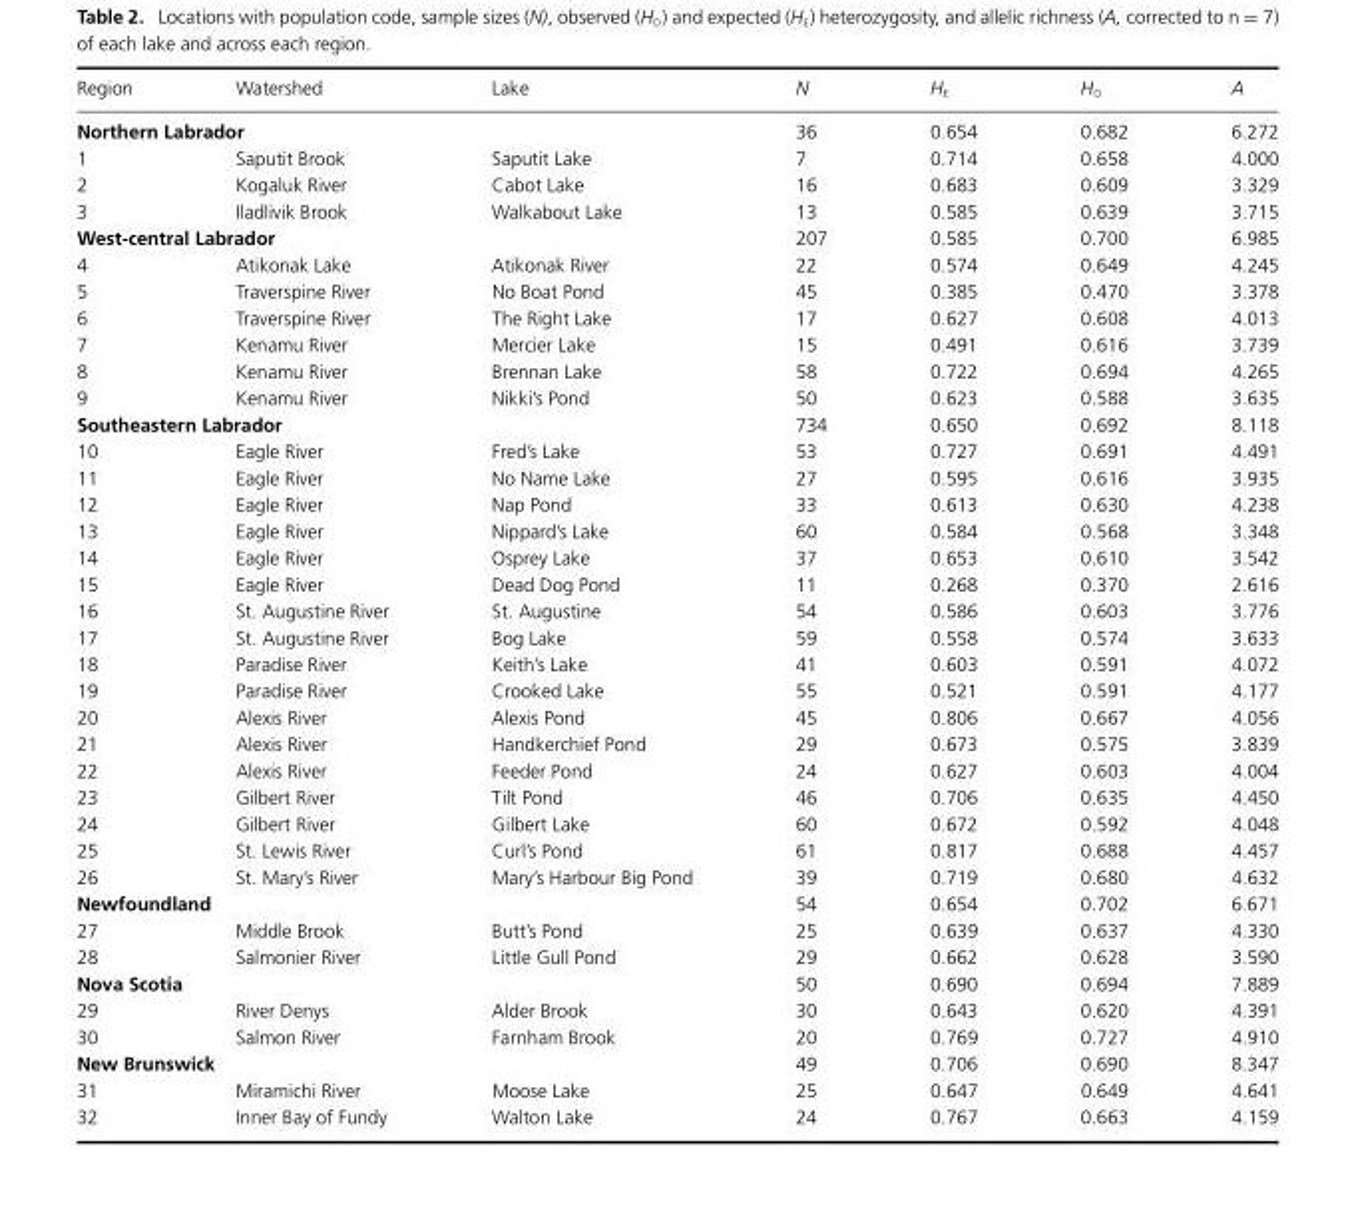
<table><thead><tr><td>Region</td><td>Watershed</td><td>Lake</td><td>N</td><td>H<sub>E</sub></td><td>H<sub>O</sub></td><td>A</td></tr></thead><tbody><tr><td colspan="3">Northern Labrador</td><td>36</td><td>0.654</td><td>0.682</td><td>6.272</td></tr><tr><td>1</td><td>Saputit Brook</td><td>Saputit Lake</td><td>7</td><td>0.714</td><td>0.658</td><td>4.000</td></tr><tr><td>2</td><td>Kogaluk River</td><td>Cabot Lake</td><td>16</td><td>0.683</td><td>0.609</td><td>3.329</td></tr><tr><td>3</td><td>Iladlivik Brook</td><td>Walkabout Lake</td><td>13</td><td>0.585</td><td>0.639</td><td>3.715</td></tr><tr><td colspan="3">West-central Labrador</td><td>207</td><td>0.585</td><td>0.700</td><td>6.985</td></tr><tr><td>4</td><td>Atikonak Lake</td><td>Atikonak River</td><td>22</td><td>0.574</td><td>0.649</td><td>4.245</td></tr><tr><td>5</td><td>Traverspine River</td><td>No Boat Pond</td><td>45</td><td>0.385</td><td>0.470</td><td>3.378</td></tr><tr><td>6</td><td>Traverspine River</td><td>The Right Lake</td><td>17</td><td>0.627</td><td>0.608</td><td>4.013</td></tr><tr><td>7</td><td>Kenamu River</td><td>Mercier Lake</td><td>15</td><td>0.491</td><td>0.616</td><td>3.739</td></tr><tr><td>8</td><td>Kenamu River</td><td>Brennan Lake</td><td>58</td><td>0.722</td><td>0.694</td><td>4.265</td></tr><tr><td>9</td><td>Kenamu River</td><td>Nikki’s Pond</td><td>50</td><td>0.623</td><td>0.588</td><td>3.635</td></tr><tr><td colspan="3">Southeastern Labrador</td><td>734</td><td>0.650</td><td>0.692</td><td>8.118</td></tr><tr><td>10</td><td>Eagle River</td><td>Fred’s Lake</td><td>53</td><td>0.727</td><td>0.691</td><td>4.491</td></tr><tr><td>11</td><td>Eagle River</td><td>No Name Lake</td><td>27</td><td>0.595</td><td>0.616</td><td>3.935</td></tr><tr><td>12</td><td>Eagle River</td><td>Nap Pond</td><td>33</td><td>0.613</td><td>0.630</td><td>4.238</td></tr><tr><td>13</td><td>Eagle River</td><td>Nippard’s Lake</td><td>60</td><td>0.584</td><td>0.568</td><td>3.348</td></tr><tr><td>14</td><td>Eagle River</td><td>Osprey Lake</td><td>37</td><td>0.653</td><td>0.610</td><td>3.542</td></tr><tr><td>15</td><td>Eagle River</td><td>Dead Dog Pond</td><td>11</td><td>0.268</td><td>0.370</td><td>2.616</td></tr><tr><td>16</td><td>St. Augustine River</td><td>St. Augustine</td><td>54</td><td>0.586</td><td>0.603</td><td>3.776</td></tr><tr><td>17</td><td>St. Augustine River</td><td>Bog Lake</td><td>59</td><td>0.558</td><td>0.574</td><td>3.633</td></tr><tr><td>18</td><td>Paradise River</td><td>Keith’s Lake</td><td>41</td><td>0.603</td><td>0.591</td><td>4.072</td></tr><tr><td>19</td><td>Paradise River</td><td>Crooked Lake</td><td>55</td><td>0.521</td><td>0.591</td><td>4.177</td></tr><tr><td>20</td><td>Alexis River</td><td>Alexis Pond</td><td>45</td><td>0.806</td><td>0.667</td><td>4.056</td></tr><tr><td>21</td><td>Alexis River</td><td>Handkerchief Pond</td><td>29</td><td>0.673</td><td>0.575</td><td>3.839</td></tr><tr><td>22</td><td>Alexis River</td><td>Feeder Pond</td><td>24</td><td>0.627</td><td>0.603</td><td>4.004</td></tr><tr><td>23</td><td>Gilbert River</td><td>Tilt Pond</td><td>46</td><td>0.706</td><td>0.635</td><td>4.450</td></tr><tr><td>24</td><td>Gilbert River</td><td>Gilbert Lake</td><td>60</td><td>0.672</td><td>0.592</td><td>4.048</td></tr><tr><td>25</td><td>St. Lewis River</td><td>Curl’s Pond</td><td>61</td><td>0.817</td><td>0.688</td><td>4.457</td></tr><tr><td>26</td><td>St. Mary’s River</td><td>Mary’s Harbour Big Pond</td><td>39</td><td>0.719</td><td>0.680</td><td>4.632</td></tr><tr><td colspan="3">Newfoundland</td><td>54</td><td>0.654</td><td>0.702</td><td>6.671</td></tr><tr><td>27</td><td>Middle Brook</td><td>Butt’s Pond</td><td>25</td><td>0.639</td><td>0.637</td><td>4.330</td></tr><tr><td>28</td><td>Salmonier River</td><td>Little Gull Pond</td><td>29</td><td>0.662</td><td>0.628</td><td>3.590</td></tr><tr><td colspan="3">Nova Scotia</td><td>50</td><td>0.690</td><td>0.694</td><td>7.889</td></tr><tr><td>29</td><td>River Denys</td><td>Alder Brook</td><td>30</td><td>0.643</td><td>0.620</td><td>4.391</td></tr><tr><td>30</td><td>Salmon River</td><td>Farnham Brook</td><td>20</td><td>0.769</td><td>0.727</td><td>4.910</td></tr><tr><td colspan="3">New Brunswick</td><td>49</td><td>0.706</td><td>0.690</td><td>8.347</td></tr><tr><td>31</td><td>Miramichi River</td><td>Moose Lake</td><td>25</td><td>0.647</td><td>0.649</td><td>4.641</td></tr><tr><td>32</td><td>Inner Bay of Fundy</td><td>Walton Lake</td><td>24</td><td>0.767</td><td>0.663</td><td>4.159</td></tr></tbody></table>